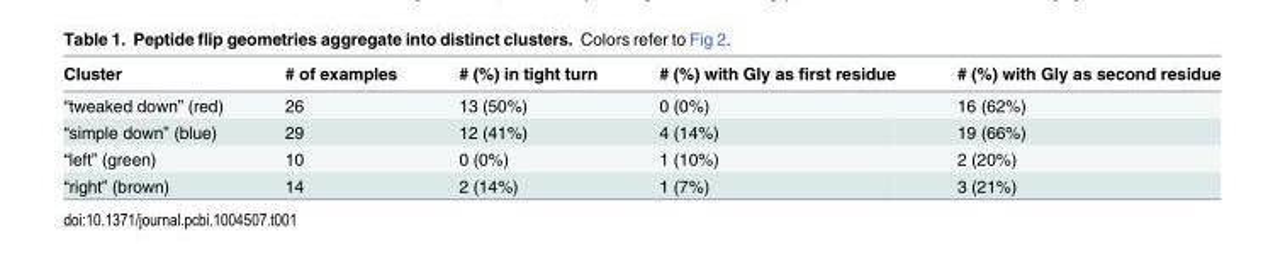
<table><thead><tr><td>Cluster</td><td># of examples</td><td># (%) in tight turn</td><td># (%) with Gly as first residue</td><td># (%) with Gly as second residue</td></tr></thead><tbody><tr><td>“tweaked down” (red)</td><td>26</td><td>13 (50%)</td><td>0 (0%)</td><td>16 (62%)</td></tr><tr><td>“simple down” (blue)</td><td>29</td><td>12 (41%)</td><td>4 (14%)</td><td>19 (66%)</td></tr><tr><td>“left” (green)</td><td>10</td><td>0 (0%)</td><td>1 (10%)</td><td>2 (20%)</td></tr><tr><td>“right” (brown)</td><td>14</td><td>2 (14%)</td><td>1 (7%)</td><td>3 (21%)</td></tr></tbody></table>